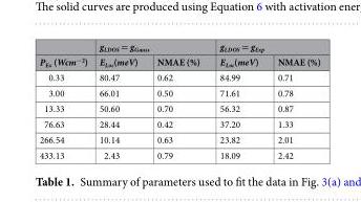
<table><thead><tr><td rowspan="2">P<sub>Ex</sub> (Wcm<sup>−2</sup>)</td><td colspan="2">g<sub>LDOS</sub> = g<sub>Gauss</sub></td><td colspan="2">g<sub>LDOS</sub> = g<sub>Exp</sub></td></tr><tr><td>E<sub>Loc</sub>(meV)</td><td>NMAE (%)</td><td>E<sub>Loc</sub>(meV)</td><td>NMAE (%)</td></tr></thead><tbody><tr><td>0.33</td><td>80.47</td><td>0.62</td><td>84.99</td><td>0.71</td></tr><tr><td>3.00</td><td>66.01</td><td>0.50</td><td>71.61</td><td>0.78</td></tr><tr><td>13.33</td><td>50.60</td><td>0.70</td><td>56.32</td><td>0.87</td></tr><tr><td>76.63</td><td>28.44</td><td>0.42</td><td>37.20</td><td>1.33</td></tr><tr><td>266.54</td><td>10.14</td><td>0.63</td><td>23.82</td><td>2.01</td></tr><tr><td>433.13</td><td>2.43</td><td>0.79</td><td>18.09</td><td>2.42</td></tr></tbody></table>